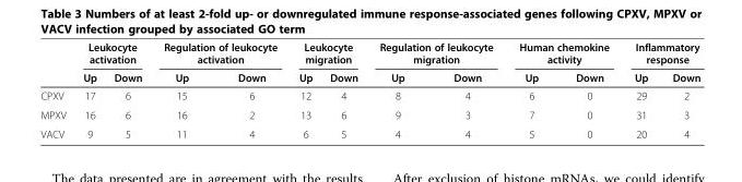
<table><thead><tr><td rowspan="2"></td><td colspan="2">Leukocyte activation</td><td colspan="2">Regulation of leukocyte activation</td><td colspan="2">Leukocyte migration</td><td colspan="2">Regulation of leukocyte migration</td><td colspan="2">Human chemokine activity</td><td colspan="2">Inflammatory response</td></tr><tr><td>Up</td><td>Down</td><td>Up</td><td>Down</td><td>Up</td><td>Down</td><td>Up</td><td>Down</td><td>Up</td><td>Down</td><td>Up</td><td>Down</td></tr></thead><tbody><tr><td>CPXV</td><td>17</td><td>6</td><td>15</td><td>6</td><td>12</td><td>4</td><td>8</td><td>4</td><td>6</td><td>0</td><td>29</td><td>2</td></tr><tr><td>MPXV</td><td>16</td><td>6</td><td>16</td><td>2</td><td>13</td><td>6</td><td>9</td><td>3</td><td>7</td><td>0</td><td>31</td><td>3</td></tr><tr><td>VACV</td><td>9</td><td>5</td><td>11</td><td>4</td><td>6</td><td>5</td><td>4</td><td>4</td><td>5</td><td>0</td><td>20</td><td>4</td></tr></tbody></table>